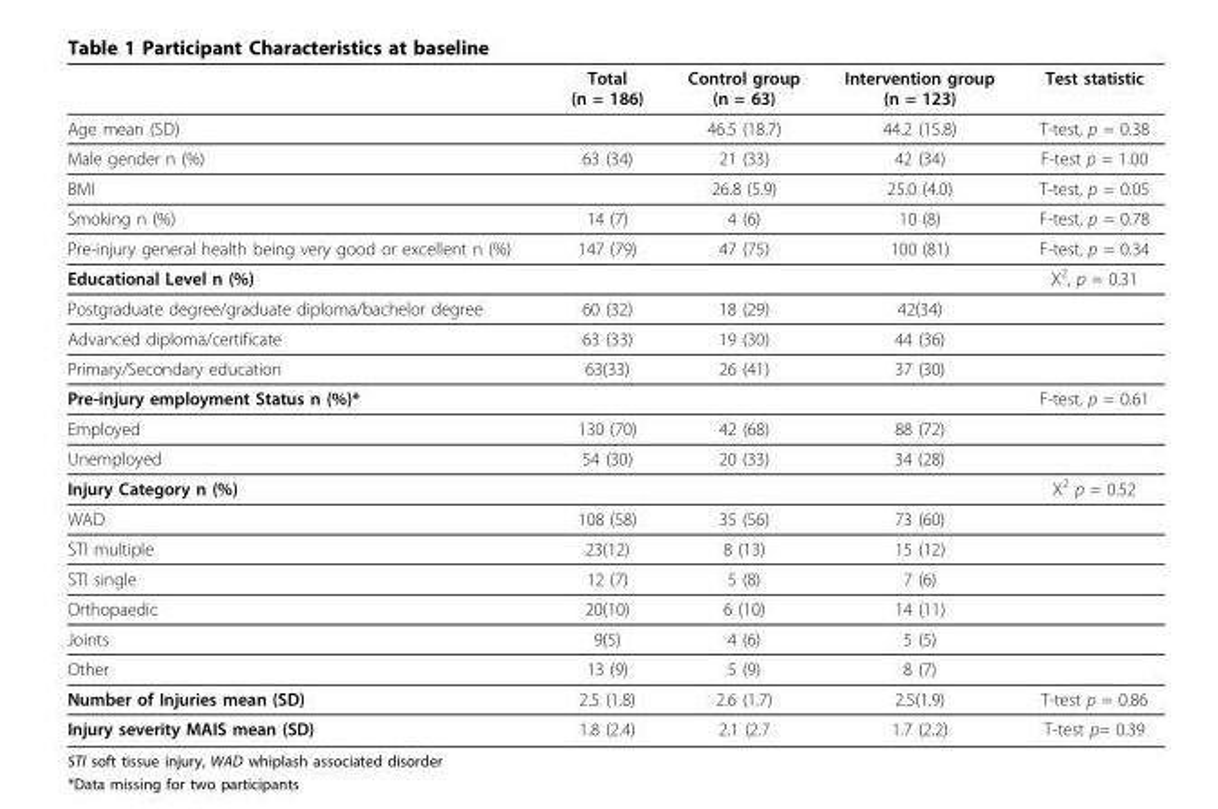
<table><thead><tr><td></td><td>Total (n = 186)</td><td>Control group (n = 63)</td><td>Intervention group (n = 123)</td><td>Test statistic</td></tr></thead><tbody><tr><td>Age mean (SD)</td><td></td><td>46.5 (18.7)</td><td>44.2 (15.8)</td><td>T-test, p = 0.38</td></tr><tr><td>Male gender n (%)</td><td>63 (34)</td><td>21 (33)</td><td>42 (34)</td><td>F-test p = 1.00</td></tr><tr><td>BMI</td><td></td><td>26.8 (5.9)</td><td>25.0 (4.0)</td><td>T-test, p = 0.05</td></tr><tr><td>Smoking n (%)</td><td>14 (7)</td><td>4 (6)</td><td>10 (8)</td><td>F-test, p = 0.78</td></tr><tr><td>Pre-injury general health being very good or excellent n (%)</td><td>147 (79)</td><td>47 (75)</td><td>100 (81)</td><td>F-test, p = 0.34</td></tr><tr><td>Educational Level n (%)</td><td></td><td></td><td></td><td>X<sup>2</sup>, p = 0.31</td></tr><tr><td>Postgraduate degree/graduate diploma/bachelor degree</td><td>60 (32)</td><td>18 (29)</td><td>42(34)</td><td></td></tr><tr><td>Advanced diploma/certificate</td><td>63 (33)</td><td>19 (30)</td><td>44 (36)</td><td></td></tr><tr><td>Primary/Secondary education</td><td>63(33)</td><td>26 (41)</td><td>37 (30)</td><td></td></tr><tr><td>Pre-injury employment Status n (%)*</td><td></td><td></td><td></td><td>F-test, p = 0.61</td></tr><tr><td>Employed</td><td>130 (70)</td><td>42 (68)</td><td>88 (72)</td><td></td></tr><tr><td>Unemployed</td><td>54 (30)</td><td>20 (33)</td><td>34 (28)</td><td></td></tr><tr><td>Injury Category n (%)</td><td></td><td></td><td></td><td>X<sup>2</sup> p = 0.52</td></tr><tr><td>WAD</td><td>108 (58)</td><td>35 (56)</td><td>73 (60)</td><td></td></tr><tr><td>STI multiple</td><td>23(12)</td><td>8 (13)</td><td>15 (12)</td><td></td></tr><tr><td>STI single</td><td>12 (7)</td><td>5 (8)</td><td>7 (6)</td><td></td></tr><tr><td>Orthopaedic</td><td>20(10)</td><td>6 (10)</td><td>14 (11)</td><td></td></tr><tr><td>Joints</td><td>9(5)</td><td>4 (6)</td><td>5 (5)</td><td></td></tr><tr><td>Other</td><td>13 (9)</td><td>5 (9)</td><td>8 (7)</td><td></td></tr><tr><td>Number of Injuries mean (SD)</td><td>2.5 (1.8)</td><td>2.6 (1.7)</td><td>2.5(1.9)</td><td>T-test p = 0.86</td></tr><tr><td>Injury severity MAIS mean (SD)</td><td>1.8 (2.4)</td><td>2.1 (2.7</td><td>1.7 (2.2)</td><td>T-test p= 0.39</td></tr></tbody></table>